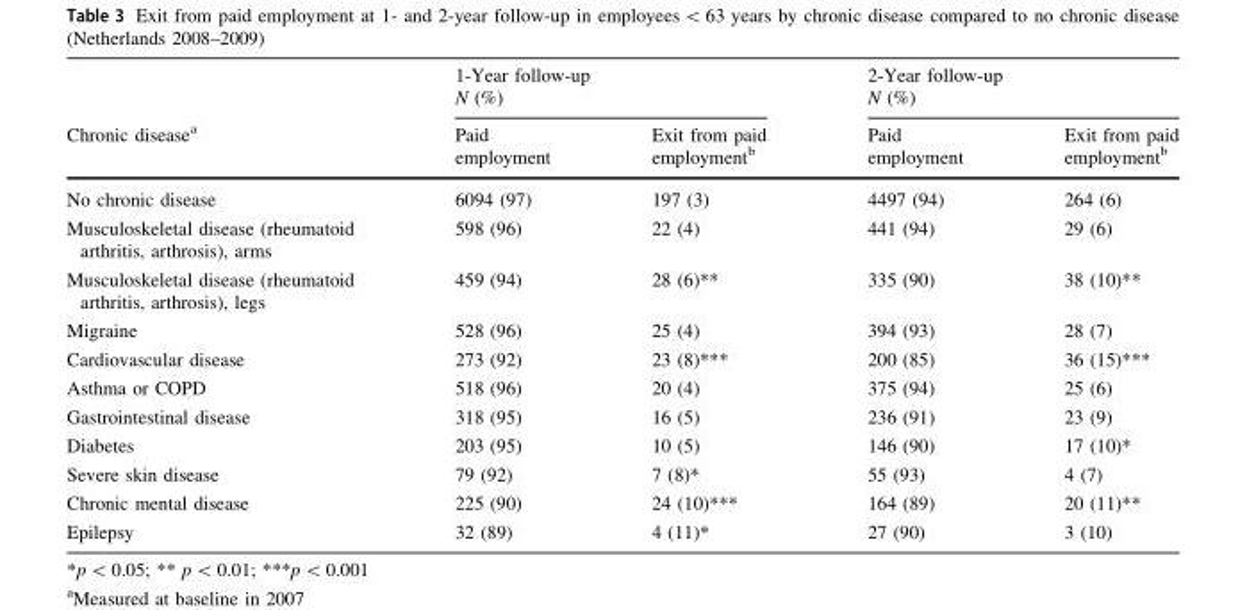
<table><thead><tr><td rowspan="2">Chronic disease<sup>a</sup></td><td colspan="2">1-Year follow-up N (%)</td><td colspan="2">2-Year follow-up N (%)</td></tr><tr><td>Paid employment</td><td>Exit from paid employment<sup>b</sup></td><td>Paid employment</td><td>Exit from paid employment<sup>b</sup></td></tr></thead><tbody><tr><td>No chronic disease</td><td>6094 (97)</td><td>197 (3)</td><td>4497 (94)</td><td>264 (6)</td></tr><tr><td>Musculoskeletal disease (rheumatoid arthritis, arthrosis), arms</td><td>598 (96)</td><td>22 (4)</td><td>441 (94)</td><td>29 (6)</td></tr><tr><td>Musculoskeletal disease (rheumatoid arthritis, arthrosis), legs</td><td>459 (94)</td><td>28 (6)**</td><td>335 (90)</td><td>38 (10)**</td></tr><tr><td>Migraine</td><td>528 (96)</td><td>25 (4)</td><td>394 (93)</td><td>28 (7)</td></tr><tr><td>Cardiovascular disease</td><td>273 (92)</td><td>23 (8)***</td><td>200 (85)</td><td>36 (15)***</td></tr><tr><td>Asthma or COPD</td><td>518 (96)</td><td>20 (4)</td><td>375 (94)</td><td>25 (6)</td></tr><tr><td>Gastrointestinal disease</td><td>318 (95)</td><td>16 (5)</td><td>236 (91)</td><td>23 (9)</td></tr><tr><td>Diabetes</td><td>203 (95)</td><td>10 (5)</td><td>146 (90)</td><td>17 (10)*</td></tr><tr><td>Severe skin disease</td><td>79 (92)</td><td>7 (8)*</td><td>55 (93)</td><td>4 (7)</td></tr><tr><td>Chronic mental disease</td><td>225 (90)</td><td>24 (10)***</td><td>164 (89)</td><td>20 (11)**</td></tr><tr><td>Epilepsy</td><td>32 (89)</td><td>4 (11)*</td><td>27 (90)</td><td>3 (10)</td></tr></tbody></table>